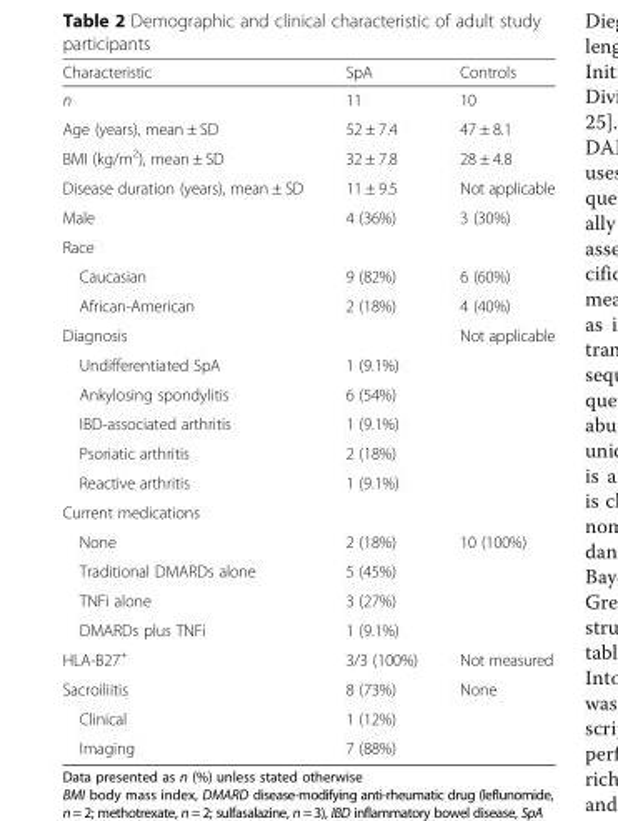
<table><thead><tr><td>Characteristic</td><td>SpA</td><td>Controls</td></tr></thead><tbody><tr><td>n</td><td>11</td><td>10</td></tr><tr><td>Age (years), mean ± SD</td><td>52 ± 7.4</td><td>47 ± 8.1</td></tr><tr><td>BMI (kg/m<sup>2</sup>), mean ± SD</td><td>32 ± 7.8</td><td>28 ± 4.8</td></tr><tr><td>Disease duration (years), mean ± SD</td><td>11 ± 9.5</td><td>Not applicable</td></tr><tr><td>Male</td><td>4 (36%)</td><td>3 (30%)</td></tr><tr><td colspan="3">Race</td></tr><tr><td>Caucasian</td><td>9 (82%)</td><td>6 (60%)</td></tr><tr><td>African-American</td><td>2 (18%)</td><td>4 (40%)</td></tr><tr><td colspan="2">Diagnosis</td><td rowspan="6">Not applicable</td></tr><tr><td>Undifferentiated SpA</td><td>1 (9.1%)</td></tr><tr><td>Ankylosing spondylitis</td><td>6 (54%)</td></tr><tr><td>IBD-associated arthritis</td><td>1 (9.1%)</td></tr><tr><td>Psoriatic arthritis</td><td>2 (18%)</td></tr><tr><td>Reactive arthritis</td><td>1 (9.1%)</td></tr><tr><td colspan="3">Current medications</td></tr><tr><td>None</td><td>2 (18%)</td><td rowspan="4">10 (100%)</td></tr><tr><td>Traditional DMARDs alone</td><td>5 (45%)</td></tr><tr><td>TNFi alone</td><td>3 (27%)</td></tr><tr><td>DMARDs plus TNFi</td><td>1 (9.1%)</td></tr><tr><td>HLA-B27<sup>+</sup></td><td>3/3 (100%)</td><td>Not measured</td></tr><tr><td>Sacroiliitis</td><td>8 (73%)</td><td rowspan="3">None</td></tr><tr><td>Clinical</td><td>1 (12%)</td></tr><tr><td>Imaging</td><td>7 (88%)</td></tr></tbody></table>